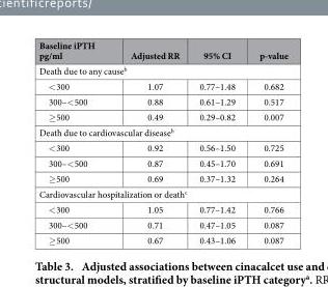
<table><thead><tr><td>Baseline iPTH pg/ml</td><td>Adjusted RR</td><td>95% CI</td><td>p-value</td></tr></thead><tbody><tr><td colspan="4">Death due to any cause<sup>b</sup></td></tr><tr><td>&lt; 300</td><td>1.07</td><td>0.77–1.48</td><td>0.682</td></tr><tr><td>300–&lt; 500</td><td>0.88</td><td>0.61–1.29</td><td>0.517</td></tr><tr><td>≥ 500</td><td>0.49</td><td>0.29–0.82</td><td>0.007</td></tr><tr><td colspan="4">Death due to cardiovascular disease<sup>b</sup></td></tr><tr><td>&lt; 300</td><td>0.92</td><td>0.56–1.50</td><td>0.725</td></tr><tr><td>300–&lt; 500</td><td>0.87</td><td>0.45–1.70</td><td>0.691</td></tr><tr><td>≥ 500</td><td>0.69</td><td>0.37–1.32</td><td>0.264</td></tr><tr><td colspan="4">Cardiovascular hospitalization or death<sup>c</sup></td></tr><tr><td>&lt; 300</td><td>1.05</td><td>0.77–1.42</td><td>0.766</td></tr><tr><td>300–&lt; 500</td><td>0.71</td><td>0.47–1.05</td><td>0.087</td></tr><tr><td>≥ 500</td><td>0.67</td><td>0.43–1.06</td><td>0.087</td></tr></tbody></table>